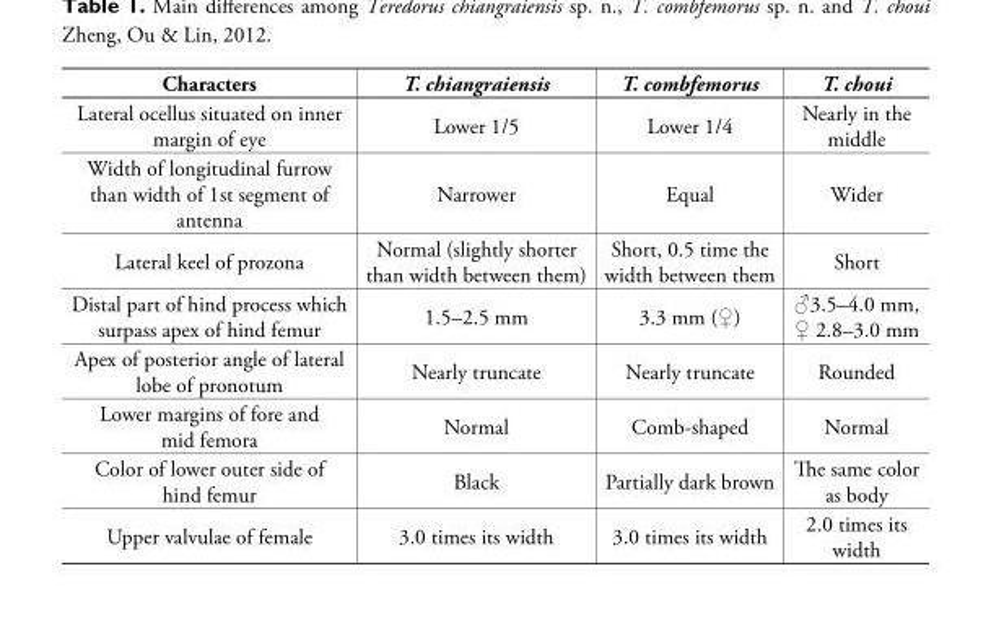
<table><thead><tr><td>Characters</td><td>T. chiangraiensis</td><td>T. combfemorus</td><td>T. choui</td></tr></thead><tbody><tr><td>Lateral ocellus situated on inner margin of eye</td><td>Lower 1/5</td><td>Lower 1/4</td><td>Nearly in the middle</td></tr><tr><td>Width of longitudinal furrow than width of 1st segment of antenna</td><td>Narrower</td><td>Equal</td><td>Wider</td></tr><tr><td>Lateral keel of prozona</td><td>Normal (slightly shorter than width between them)</td><td>Short, 0.5 time the width between them</td><td>Short</td></tr><tr><td>Distal part of hind process which surpass apex of hind femur</td><td>1.5–2.5 mm</td><td>3.3 mm (♀)</td><td>♂3.5–4.0 mm, ♀ 2.8–3.0 mm</td></tr><tr><td>Apex of posterior angle of lateral lobe of pronotum</td><td>Nearly truncate</td><td>Nearly truncate</td><td>Rounded</td></tr><tr><td>Lower margins of fore and mid femora</td><td>Normal</td><td>Comb-shaped</td><td>Normal</td></tr><tr><td>Color of lower outer side of hind femur</td><td>Black</td><td>Partially dark brown</td><td>The same color as body</td></tr><tr><td>Upper valvulae of female</td><td>3.0 times its width</td><td>3.0 times its width</td><td>2.0 times its width</td></tr></tbody></table>